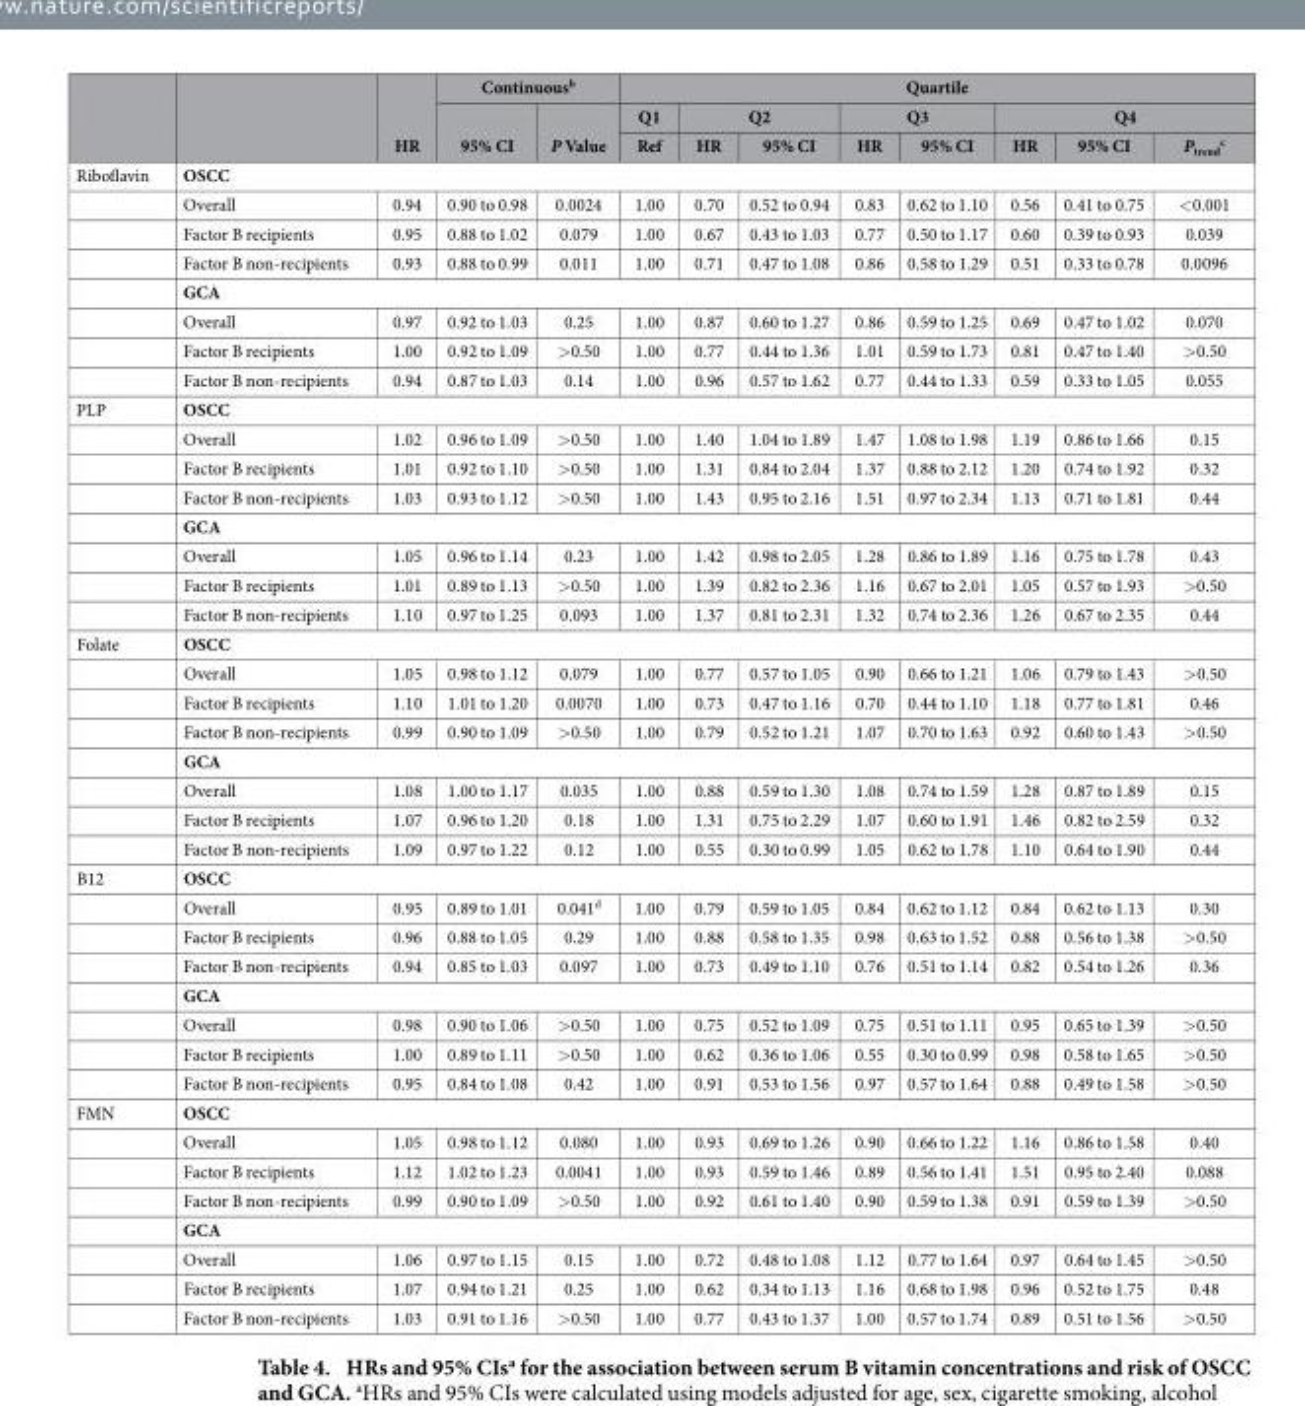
<table><thead><tr><td rowspan="3"></td><td rowspan="3"></td><td rowspan="3">HR</td><td colspan="2">Continuous<sup>b</sup></td><td colspan="8">Quartile</td></tr><tr><td rowspan="2">95% CI</td><td rowspan="2">P Value</td><td rowspan="2">Q1 Ref</td><td colspan="2">Q2</td><td colspan="2">Q3</td><td colspan="3">Q4</td></tr><tr><td>HR</td><td>95% CI</td><td>HR</td><td>95% CI</td><td>HR</td><td>95% CI</td><td>P<sub>trend</sub> <sup>c</sup></td></tr></thead><tbody><tr><td rowspan="8">Riboflavin</td><td colspan="12">OSCC</td></tr><tr><td>Overall</td><td>0.94</td><td>0.90 to 0.98</td><td>0.0024</td><td>1.00</td><td>0.70</td><td>0.52 to 0.94</td><td>0.83</td><td>0.62 to 1.10</td><td>0.56</td><td>0.41 to 0.75</td><td>&lt; 0.001</td></tr><tr><td>Factor B recipients</td><td>0.95</td><td>0.88 to 1.02</td><td>0.079</td><td>1.00</td><td>0.67</td><td>0.43 to 1.03</td><td>0.77</td><td>0.50 to 1.17</td><td>0.60</td><td>0.39 to 0.93</td><td>0.039</td></tr><tr><td>Factor B non-recipients</td><td>0.93</td><td>0.88 to 0.99</td><td>0.011</td><td>1.00</td><td>0.71</td><td>0.47 to 1.08</td><td>0.86</td><td>0.58 to 1.29</td><td>0.51</td><td>0.33 to 0.78</td><td>0.0096</td></tr><tr><td colspan="12">GCA</td></tr><tr><td>Overall</td><td>0.97</td><td>0.92 to 1.03</td><td>0.25</td><td>1.00</td><td>0.87</td><td>0.60 to 1.27</td><td>0.86</td><td>0.59 to 1.25</td><td>0.69</td><td>0.47 to 1.02</td><td>0.070</td></tr><tr><td>Factor B recipients</td><td>1.00</td><td>0.92 to 1.09</td><td>&gt; 0.50</td><td>1.00</td><td>0.77</td><td>0.44 to 1.36</td><td>1.01</td><td>0.59 to 1.73</td><td>0.81</td><td>0.47 to 1.40</td><td>&gt; 0.50</td></tr><tr><td>Factor B non-recipients</td><td>0.94</td><td>0.87 to 1.03</td><td>0.14</td><td>1.00</td><td>0.96</td><td>0.57 to 1.62</td><td>0.77</td><td>0.44 to 1.33</td><td>0.59</td><td>0.33 to 1.05</td><td>0.055</td></tr><tr><td rowspan="8">PLP</td><td colspan="12">OSCC</td></tr><tr><td>Overall</td><td>1.02</td><td>0.96 to 1.09</td><td>&gt; 0.50</td><td>1.00</td><td>1.40</td><td>1.04 to 1.89</td><td>1.47</td><td>1.08 to 1.98</td><td>1.19</td><td>0.86 to 1.66</td><td>0.15</td></tr><tr><td>Factor B recipients</td><td>1.01</td><td>0.92 to 1.10</td><td>&gt; 0.50</td><td>1.00</td><td>1.31</td><td>0.84 to 2.04</td><td>1.37</td><td>0.88 to 2.12</td><td>1.20</td><td>0.74 to 1.92</td><td>0.32</td></tr><tr><td>Factor B non-recipients</td><td>1.03</td><td>0.93 to 1.12</td><td>&gt; 0.50</td><td>1.00</td><td>1.43</td><td>0.95 to 2.16</td><td>1.51</td><td>0.97 to 2.34</td><td>1.13</td><td>0.71 to 1.81</td><td>0.44</td></tr><tr><td colspan="12">GCA</td></tr><tr><td>Overall</td><td>1.05</td><td>0.96 to 1.14</td><td>0.23</td><td>1.00</td><td>1.42</td><td>0.98 to 2.05</td><td>1.28</td><td>0.86 to 1.89</td><td>1.16</td><td>0.75 to 1.78</td><td>0.43</td></tr><tr><td>Factor B recipients</td><td>1.01</td><td>0.89 to 1.13</td><td>&gt; 0.50</td><td>1.00</td><td>1.39</td><td>0.82 to 2.36</td><td>1.16</td><td>0.67 to 2.01</td><td>1.05</td><td>0.57 to 1.93</td><td>&gt; 0.50</td></tr><tr><td>Factor B non-recipients</td><td>1.10</td><td>0.97 to 1.25</td><td>0.093</td><td>1.00</td><td>1.37</td><td>0.81 to 2.31</td><td>1.32</td><td>0.74 to 2.36</td><td>1.26</td><td>0.67 to 2.35</td><td>0.44</td></tr><tr><td rowspan="8">Folate</td><td colspan="12">OSCC</td></tr><tr><td>Overall</td><td>1.05</td><td>0.98 to 1.12</td><td>0.079</td><td>1.00</td><td>0.77</td><td>0.57 to 1.05</td><td>0.90</td><td>0.66 to 1.21</td><td>1.06</td><td>0.79 to 1.43</td><td>&gt; 0.50</td></tr><tr><td>Factor B recipients</td><td>1.10</td><td>1.01 to 1.20</td><td>0.0070</td><td>1.00</td><td>0.73</td><td>0.47 to 1.16</td><td>0.70</td><td>0.44 to 1.10</td><td>1.18</td><td>0.77 to 1.81</td><td>0.46</td></tr><tr><td>Factor B non-recipients</td><td>0.99</td><td>0.90 to 1.09</td><td>&gt; 0.50</td><td>1.00</td><td>0.79</td><td>0.52 to 1.21</td><td>1.07</td><td>0.70 to 1.63</td><td>0.92</td><td>0.60 to 1.43</td><td>&gt; 0.50</td></tr><tr><td colspan="12">GCA</td></tr><tr><td>Overall</td><td>1.08</td><td>1.00 to 1.17</td><td>0.035</td><td>1.00</td><td>0.88</td><td>0.59 to 1.30</td><td>1.08</td><td>0.74 to 1.59</td><td>1.28</td><td>0.87 to 1.89</td><td>0.15</td></tr><tr><td>Factor B recipients</td><td>1.07</td><td>0.96 to 1.20</td><td>0.18</td><td>1.00</td><td>1.31</td><td>0.75 to 2.29</td><td>1.07</td><td>0.60 to 1.91</td><td>1.46</td><td>0.82 to 2.59</td><td>0.32</td></tr><tr><td>Factor B non-recipients</td><td>1.09</td><td>0.97 to 1.22</td><td>0.12</td><td>1.00</td><td>0.55</td><td>0.30 to 0.99</td><td>1.05</td><td>0.62 to 1.78</td><td>1.10</td><td>0.64 to 1.90</td><td>0.44</td></tr><tr><td rowspan="8">B12</td><td colspan="12">OSCC</td></tr><tr><td>Overall</td><td>0.95</td><td>0.89 to 1.01</td><td>0.041<sup>d</sup></td><td>1.00</td><td>0.79</td><td>0.59 to 1.05</td><td>0.84</td><td>0.62 to 1.12</td><td>0.84</td><td>0.62 to 1.13</td><td>0.30</td></tr><tr><td>Factor B recipients</td><td>0.96</td><td>0.88 to 1.05</td><td>0.29</td><td>1.00</td><td>0.88</td><td>0.58 to 1.35</td><td>0.98</td><td>0.63 to 1.52</td><td>0.88</td><td>0.56 to 1.38</td><td>&gt; 0.50</td></tr><tr><td>Factor B non-recipients</td><td>0.94</td><td>0.85 to 1.03</td><td>0.097</td><td>1.00</td><td>0.73</td><td>0.49 to 1.10</td><td>0.76</td><td>0.51 to 1.14</td><td>0.82</td><td>0.54 to 1.26</td><td>0.36</td></tr><tr><td colspan="12">GCA</td></tr><tr><td>Overall</td><td>0.98</td><td>0.90 to 1.06</td><td>&gt; 0.50</td><td>1.00</td><td>0.75</td><td>0.52 to 1.09</td><td>0.75</td><td>0.51 to 1.11</td><td>0.95</td><td>0.65 to 1.39</td><td>&gt; 0.50</td></tr><tr><td>Factor B recipients</td><td>1.00</td><td>0.89 to 1.11</td><td>&gt; 0.50</td><td>1.00</td><td>0.62</td><td>0.36 to 1.06</td><td>0.55</td><td>0.30 to 0.99</td><td>0.98</td><td>0.58 to 1.65</td><td>&gt; 0.50</td></tr><tr><td>Factor B non-recipients</td><td>0.95</td><td>0.84 to 1.08</td><td>0.42</td><td>1.00</td><td>0.91</td><td>0.53 to 1.56</td><td>0.97</td><td>0.57 to 1.64</td><td>0.88</td><td>0.49 to 1.58</td><td>&gt; 0.50</td></tr><tr><td rowspan="8">FMN</td><td colspan="12">OSCC</td></tr><tr><td>Overall</td><td>1.05</td><td>0.98 to 1.12</td><td>0.080</td><td>1.00</td><td>0.93</td><td>0.69 to 1.26</td><td>0.90</td><td>0.66 to 1.22</td><td>1.16</td><td>0.86 to 1.58</td><td>0.40</td></tr><tr><td>Factor B recipients</td><td>1.12</td><td>1.02 to 1.23</td><td>0.0041</td><td>1.00</td><td>0.93</td><td>0.59 to 1.46</td><td>0.89</td><td>0.56 to 1.41</td><td>1.51</td><td>0.95 to 2.40</td><td>0.088</td></tr><tr><td>Factor B non-recipients</td><td>0.99</td><td>0.90 to 1.09</td><td>&gt; 0.50</td><td>1.00</td><td>0.92</td><td>0.61 to 1.40</td><td>0.90</td><td>0.59 to 1.38</td><td>0.91</td><td>0.59 to 1.39</td><td>&gt; 0.50</td></tr><tr><td colspan="12">GCA</td></tr><tr><td>Overall</td><td>1.06</td><td>0.97 to 1.15</td><td>0.15</td><td>1.00</td><td>0.72</td><td>0.48 to 1.08</td><td>1.12</td><td>0.77 to 1.64</td><td>0.97</td><td>0.64 to 1.45</td><td>&gt; 0.50</td></tr><tr><td>Factor B recipients</td><td>1.07</td><td>0.94 to 1.21</td><td>0.25</td><td>1.00</td><td>0.62</td><td>0.34 to 1.13</td><td>1.16</td><td>0.68 to 1.98</td><td>0.96</td><td>0.52 to 1.75</td><td>0.48</td></tr><tr><td>Factor B non-recipients</td><td>1.03</td><td>0.91 to 1.16</td><td>&gt; 0.50</td><td>1.00</td><td>0.77</td><td>0.43 to 1.37</td><td>1.00</td><td>0.57 to 1.74</td><td>0.89</td><td>0.51 to 1.56</td><td>&gt; 0.50</td></tr></tbody></table>